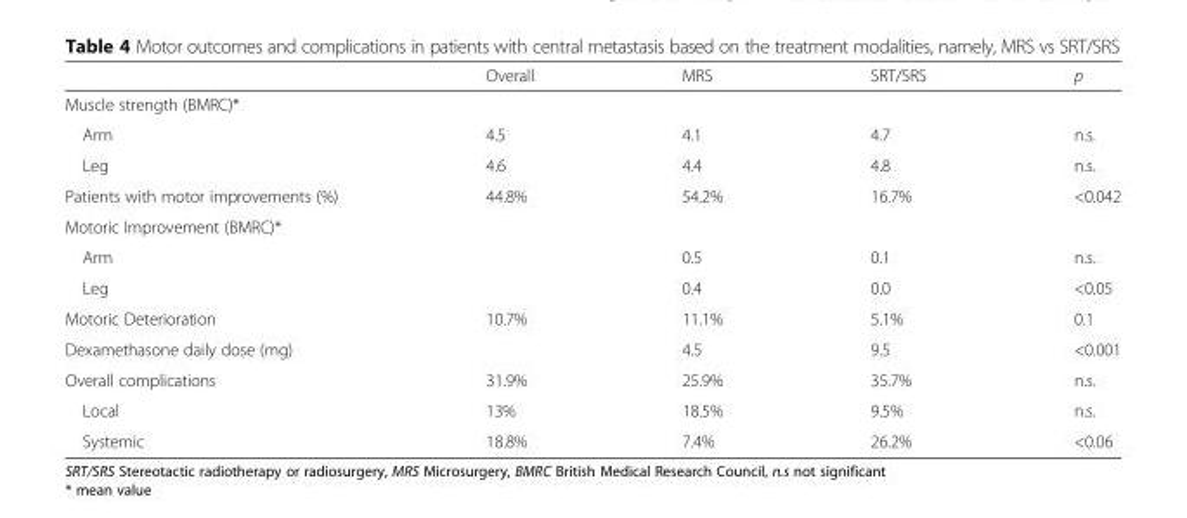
<table><thead><tr><td></td><td>Overall</td><td>MRS</td><td>SRT/SRS</td><td>p</td></tr></thead><tbody><tr><td colspan="5">Muscle strength (BMRC)*</td></tr><tr><td>Arm</td><td>4.5</td><td>4.1</td><td>4.7</td><td>n.s.</td></tr><tr><td>Leg</td><td>4.6</td><td>4.4</td><td>4.8</td><td>n.s.</td></tr><tr><td>Patients with motor improvements (%)</td><td>44.8%</td><td>54.2%</td><td>16.7%</td><td>&lt;0.042</td></tr><tr><td colspan="5">Motoric Improvement (BMRC)*</td></tr><tr><td>Arm</td><td></td><td>0.5</td><td>0.1</td><td>n.s.</td></tr><tr><td>Leg</td><td></td><td>0.4</td><td>0.0</td><td>&lt;0.05</td></tr><tr><td>Motoric Deterioration</td><td>10.7%</td><td>11.1%</td><td>5.1%</td><td>0.1</td></tr><tr><td>Dexamethasone daily dose (mg)</td><td></td><td>4.5</td><td>9.5</td><td>&lt;0.001</td></tr><tr><td>Overall complications</td><td>31.9%</td><td>25.9%</td><td>35.7%</td><td>n.s.</td></tr><tr><td>Local</td><td>13%</td><td>18.5%</td><td>9.5%</td><td>n.s.</td></tr><tr><td>Systemic</td><td>18.8%</td><td>7.4%</td><td>26.2%</td><td>&lt;0.06</td></tr></tbody></table>